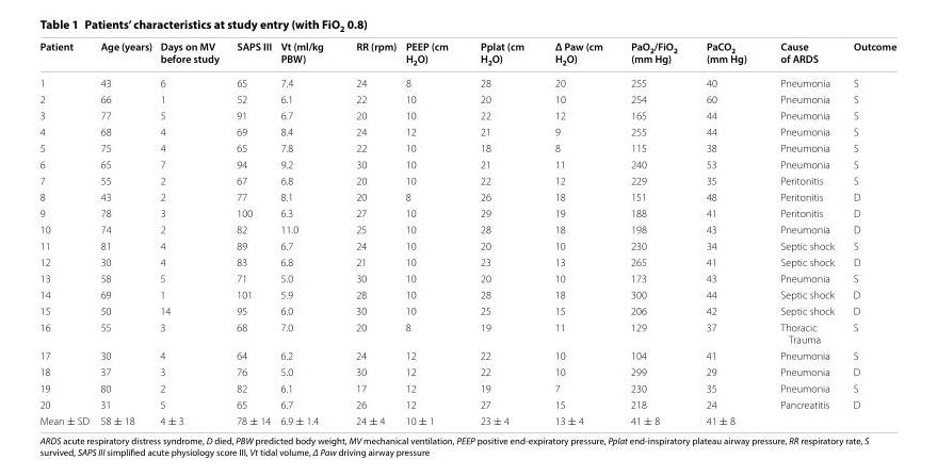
<table><thead><tr><td>Patient</td><td>Age (years)</td><td>Days on MV before study</td><td>SAPS III</td><td>Vt (ml/kg PBW)</td><td>RR (rpm)</td><td>PEEP (cm H<sub>2</sub>O)</td><td>Pplat (cm H<sub>2</sub>O)</td><td>Δ Paw (cm H<sub>2</sub>O)</td><td>PaO<sub>2</sub>/FiO<sub>2</sub> (mm Hg)</td><td>PaCO<sub>2</sub> (mm Hg)</td><td>Cause of ARDS</td><td>Outcome</td></tr></thead><tbody><tr><td>1</td><td>43</td><td>6</td><td>65</td><td>7.4</td><td>24</td><td>8</td><td>28</td><td>20</td><td>255</td><td>40</td><td>Pneumonia</td><td>S</td></tr><tr><td>2</td><td>66</td><td>1</td><td>52</td><td>6.1</td><td>22</td><td>10</td><td>20</td><td>10</td><td>254</td><td>60</td><td>Pneumonia</td><td>S</td></tr><tr><td>3</td><td>77</td><td>5</td><td>91</td><td>6.7</td><td>20</td><td>10</td><td>22</td><td>12</td><td>165</td><td>44</td><td>Pneumonia</td><td>S</td></tr><tr><td>4</td><td>68</td><td>4</td><td>69</td><td>8.4</td><td>24</td><td>12</td><td>21</td><td>9</td><td>255</td><td>44</td><td>Pneumonia</td><td>S</td></tr><tr><td>5</td><td>75</td><td>4</td><td>65</td><td>7.8</td><td>22</td><td>10</td><td>18</td><td>8</td><td>115</td><td>38</td><td>Pneumonia</td><td>S</td></tr><tr><td>6</td><td>65</td><td>7</td><td>94</td><td>9.2</td><td>30</td><td>10</td><td>21</td><td>11</td><td>240</td><td>53</td><td>Pneumonia</td><td>S</td></tr><tr><td>7</td><td>55</td><td>2</td><td>67</td><td>6.8</td><td>20</td><td>10</td><td>22</td><td>12</td><td>229</td><td>35</td><td>Peritonitis</td><td>S</td></tr><tr><td>8</td><td>43</td><td>2</td><td>77</td><td>8.1</td><td>20</td><td>8</td><td>26</td><td>18</td><td>151</td><td>48</td><td>Peritonitis</td><td>D</td></tr><tr><td>9</td><td>78</td><td>3</td><td>100</td><td>6.3</td><td>27</td><td>10</td><td>29</td><td>19</td><td>188</td><td>41</td><td>Peritonitis</td><td>D</td></tr><tr><td>10</td><td>74</td><td>2</td><td>82</td><td>11.0</td><td>25</td><td>10</td><td>28</td><td>18</td><td>198</td><td>43</td><td>Pneumonia</td><td>D</td></tr><tr><td>11</td><td>81</td><td>4</td><td>89</td><td>6.7</td><td>24</td><td>10</td><td>20</td><td>10</td><td>230</td><td>34</td><td>Septic shock</td><td>S</td></tr><tr><td>12</td><td>30</td><td>4</td><td>83</td><td>6.8</td><td>21</td><td>10</td><td>23</td><td>13</td><td>265</td><td>41</td><td>Septic shock</td><td>D</td></tr><tr><td>13</td><td>58</td><td>5</td><td>71</td><td>5.0</td><td>30</td><td>10</td><td>20</td><td>10</td><td>173</td><td>43</td><td>Pneumonia</td><td>S</td></tr><tr><td>14</td><td>69</td><td>1</td><td>101</td><td>5.9</td><td>28</td><td>10</td><td>28</td><td>18</td><td>300</td><td>44</td><td>Septic shock</td><td>D</td></tr><tr><td>15</td><td>50</td><td>14</td><td>95</td><td>6.0</td><td>30</td><td>10</td><td>25</td><td>15</td><td>206</td><td>42</td><td>Septic shock</td><td>D</td></tr><tr><td>16</td><td>55</td><td>3</td><td>68</td><td>7.0</td><td>20</td><td>8</td><td>19</td><td>11</td><td>129</td><td>37</td><td>Thoracic Trauma</td><td>S</td></tr><tr><td>17</td><td>30</td><td>4</td><td>64</td><td>6.2</td><td>24</td><td>12</td><td>22</td><td>10</td><td>104</td><td>41</td><td>Pneumonia</td><td>S</td></tr><tr><td>18</td><td>37</td><td>3</td><td>76</td><td>5.0</td><td>30</td><td>12</td><td>22</td><td>10</td><td>299</td><td>29</td><td>Pneumonia</td><td>D</td></tr><tr><td>19</td><td>80</td><td>2</td><td>82</td><td>6.1</td><td>17</td><td>12</td><td>19</td><td>7</td><td>230</td><td>35</td><td>Pneumonia</td><td>S</td></tr><tr><td>20</td><td>31</td><td>5</td><td>65</td><td>6.7</td><td>26</td><td>12</td><td>27</td><td>15</td><td>218</td><td>24</td><td>Pancreatitis</td><td>D</td></tr><tr><td>Mean ± SD</td><td>58 ± 18</td><td>4 ± 3</td><td>78 ± 14</td><td>6.9 ± 1.4</td><td>24 ± 4</td><td>10 ± 1</td><td>23 ± 4</td><td>13 ± 4</td><td>41 ± 8</td><td>41 ± 8</td><td></td><td></td></tr></tbody></table>